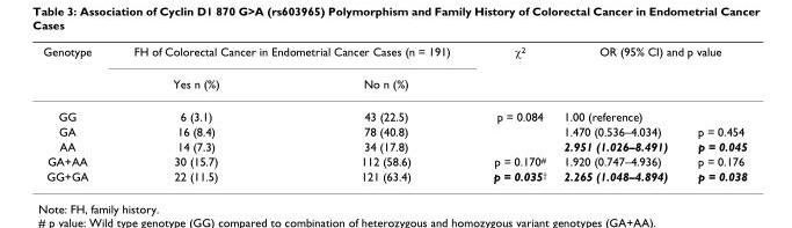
<table><thead><tr><td rowspan="2">Genotype</td><td colspan="2">FH of Colorectal Cancer in Endometrial Cancer Cases (n = 191)</td><td rowspan="2">χ<sup>2</sup></td><td colspan="2">OR (95% CI) and p value</td></tr><tr><td>Yes n (%)</td><td>No n (%)</td><td></td><td></td></tr></thead><tbody><tr><td>GG</td><td>6 (3.1)</td><td>43 (22.5)</td><td>p = 0.084</td><td>1.00 (reference)</td><td></td></tr><tr><td>GA</td><td>16 (8.4)</td><td>78 (40.8)</td><td></td><td>1.470 (0.536–4.034)</td><td>p = 0.454</td></tr><tr><td>AA</td><td>14 (7.3)</td><td>34 (17.8)</td><td></td><td>2.951 (1.026–8.491)</td><td>p = 0.045</td></tr><tr><td>GA+AA</td><td>30 (15.7)</td><td>112 (58.6)</td><td>p = 0.170<sup>#</sup></td><td>1.920 (0.747–4.936)</td><td>p = 0.176</td></tr><tr><td>GG+GA</td><td>22 (11.5)</td><td>121 (63.4)</td><td>p = 0.035<sup>†</sup></td><td>2.265 (1.048–4.894)</td><td>p = 0.038</td></tr></tbody></table>